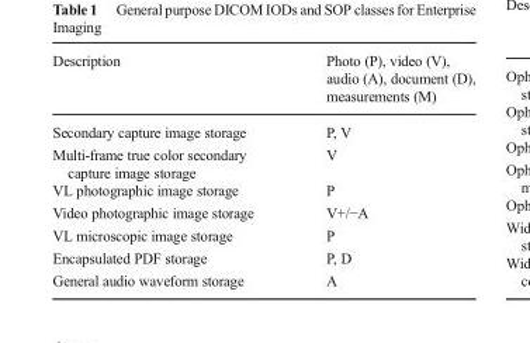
<table><thead><tr><td>Description</td><td>Photo (P), video (V), audio (A), document (D), measurements (M)</td></tr></thead><tbody><tr><td>Secondary capture image storage</td><td>P, V</td></tr><tr><td>Multi-frame true color secondary capture image storage</td><td>V</td></tr><tr><td>VL photographic image storage</td><td>P</td></tr><tr><td>Video photographic image storage</td><td>V+/−A</td></tr><tr><td>VL microscopic image storage</td><td>P</td></tr><tr><td>Encapsulated PDF storage</td><td>P, D</td></tr><tr><td>General audio waveform storage</td><td>A</td></tr></tbody></table>